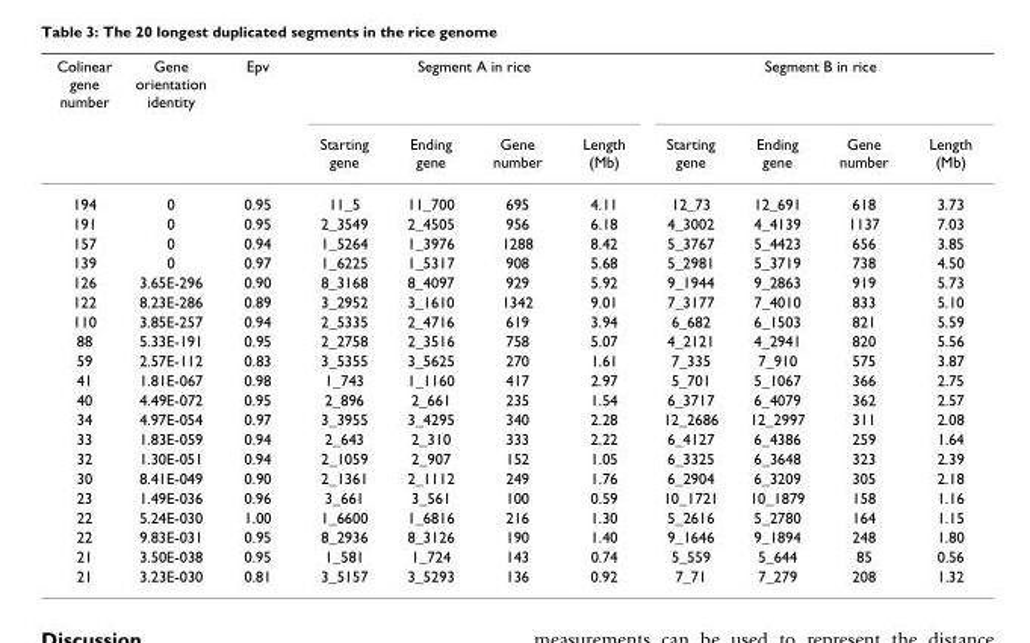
<table><thead><tr><td rowspan="2">Colinear gene number</td><td rowspan="2">Gene orientation identity</td><td rowspan="2">Epv</td><td colspan="4">Segment A in rice</td><td colspan="4">Segment B in rice</td></tr><tr><td>Starting gene</td><td>Ending gene</td><td>Gene number</td><td>Length (Mb)</td><td>Starting gene</td><td>Ending gene</td><td>Gene number</td><td>Length (Mb)</td></tr></thead><tbody><tr><td>194</td><td>0</td><td>0.95</td><td>11_5</td><td>11_700</td><td>695</td><td>4.11</td><td>12_73</td><td>12_691</td><td>618</td><td>3.73</td></tr><tr><td>191</td><td>0</td><td>0.95</td><td>2_3549</td><td>2_4505</td><td>956</td><td>6.18</td><td>4_3002</td><td>4_4139</td><td>1137</td><td>7.03</td></tr><tr><td>157</td><td>0</td><td>0.94</td><td>1_5264</td><td>1_3976</td><td>1288</td><td>8.42</td><td>5_3767</td><td>5_4423</td><td>656</td><td>3.85</td></tr><tr><td>139</td><td>0</td><td>0.97</td><td>1_6225</td><td>1_5317</td><td>908</td><td>5.68</td><td>5_2981</td><td>5_3719</td><td>738</td><td>4.50</td></tr><tr><td>126</td><td>3.65E-296</td><td>0.90</td><td>8_3168</td><td>8_4097</td><td>929</td><td>5.92</td><td>9_1944</td><td>9_2863</td><td>919</td><td>5.73</td></tr><tr><td>122</td><td>8.23E-286</td><td>0.89</td><td>3_2952</td><td>3_1610</td><td>1342</td><td>9.01</td><td>7_3177</td><td>7_4010</td><td>833</td><td>5.10</td></tr><tr><td>110</td><td>3.85E-257</td><td>0.94</td><td>2_5335</td><td>2_4716</td><td>619</td><td>3.94</td><td>6_682</td><td>6_1503</td><td>821</td><td>5.59</td></tr><tr><td>88</td><td>5.33E-191</td><td>0.95</td><td>2_2758</td><td>2_3516</td><td>758</td><td>5.07</td><td>4_2121</td><td>4_2941</td><td>820</td><td>5.56</td></tr><tr><td>59</td><td>2.57E-112</td><td>0.83</td><td>3_5355</td><td>3_5625</td><td>270</td><td>1.61</td><td>7_335</td><td>7_910</td><td>575</td><td>3.87</td></tr><tr><td>41</td><td>1.81E-067</td><td>0.98</td><td>1_743</td><td>1_1160</td><td>417</td><td>2.97</td><td>5_701</td><td>5_1067</td><td>366</td><td>2.75</td></tr><tr><td>40</td><td>4.49E-072</td><td>0.95</td><td>2_896</td><td>2_661</td><td>235</td><td>1.54</td><td>6_3717</td><td>6_4079</td><td>362</td><td>2.57</td></tr><tr><td>34</td><td>4.97E-054</td><td>0.97</td><td>3_3955</td><td>3_4295</td><td>340</td><td>2.28</td><td>12_2686</td><td>12_2997</td><td>311</td><td>2.08</td></tr><tr><td>33</td><td>1.83E-059</td><td>0.94</td><td>2_643</td><td>2_310</td><td>333</td><td>2.22</td><td>6_4127</td><td>6_4386</td><td>259</td><td>1.64</td></tr><tr><td>32</td><td>1.30E-051</td><td>0.94</td><td>2_1059</td><td>2_907</td><td>152</td><td>1.05</td><td>6_3325</td><td>6_3648</td><td>323</td><td>2.39</td></tr><tr><td>30</td><td>8.41E-049</td><td>0.90</td><td>2_1361</td><td>2_1112</td><td>249</td><td>1.76</td><td>6_2904</td><td>6_3209</td><td>305</td><td>2.18</td></tr><tr><td>23</td><td>1.49E-036</td><td>0.96</td><td>3_661</td><td>3_561</td><td>100</td><td>0.59</td><td>10_1721</td><td>10_1879</td><td>158</td><td>1.16</td></tr><tr><td>22</td><td>5.24E-030</td><td>1.00</td><td>1_6600</td><td>1_6816</td><td>216</td><td>1.30</td><td>5_2616</td><td>5_2780</td><td>164</td><td>1.15</td></tr><tr><td>22</td><td>9.83E-031</td><td>0.95</td><td>8_2936</td><td>8_3126</td><td>190</td><td>1.40</td><td>9_1646</td><td>9_1894</td><td>248</td><td>1.80</td></tr><tr><td>21</td><td>3.50E-038</td><td>0.95</td><td>1_581</td><td>1_724</td><td>143</td><td>0.74</td><td>5_559</td><td>5_644</td><td>85</td><td>0.56</td></tr><tr><td>21</td><td>3.23E-030</td><td>0.81</td><td>3_5157</td><td>3_5293</td><td>136</td><td>0.92</td><td>7_71</td><td>7_279</td><td>208</td><td>1.32</td></tr></tbody></table>